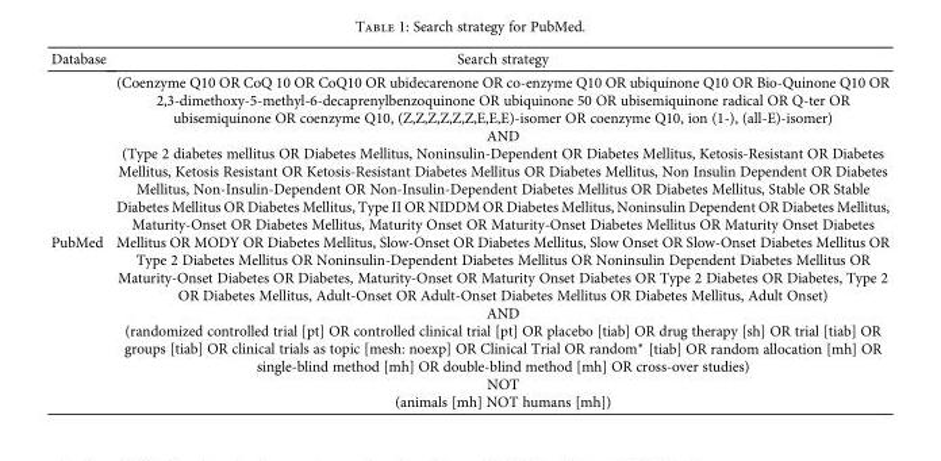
<table><thead><tr><td>Database</td><td>Search strategy</td></tr></thead><tbody><tr><td>PubMed</td><td>(Coenzyme Q10 OR CoQ 10 OR CoQ10 OR ubidecarenone OR co-enzyme Q10 OR ubiquinone Q10 OR Bio-Quinone Q10 OR 2,3-dimethoxy-5-methyl-6-decaprenylbenzoquinone OR ubiquinone 50 OR ubisemiquinone radical OR Q-ter OR ubisemiquinone OR coenzyme Q10, (Z,Z,Z,Z,Z,Z,E,E,E)-isomer OR coenzyme Q10, ion (1-), (all-E)-isomer) AND (Type 2 diabetes mellitus OR Diabetes Mellitus, Noninsulin-Dependent OR Diabetes Mellitus, Ketosis-Resistant OR Diabetes Mellitus, Ketosis Resistant OR Ketosis-Resistant Diabetes Mellitus OR Diabetes Mellitus, Non Insulin Dependent OR Diabetes Mellitus, Non-Insulin-Dependent OR Non-Insulin-Dependent Diabetes Mellitus OR Diabetes Mellitus, Stable OR Stable Diabetes Mellitus OR Diabetes Mellitus, Type II OR NIDDM OR Diabetes Mellitus, Noninsulin Dependent OR Diabetes Mellitus, Maturity-Onset OR Diabetes Mellitus, Maturity Onset OR Maturity-Onset Diabetes Mellitus OR Maturity Onset Diabetes Mellitus OR MODY OR Diabetes Mellitus, Slow-Onset OR Diabetes Mellitus, Slow Onset OR Slow-Onset Diabetes Mellitus OR Type 2 Diabetes Mellitus OR Noninsulin-Dependent Diabetes Mellitus OR Noninsulin Dependent Diabetes Mellitus OR Maturity-Onset Diabetes OR Diabetes, Maturity-Onset OR Maturity Onset Diabetes OR Type 2 Diabetes OR Diabetes, Type 2 OR Diabetes Mellitus, Adult-Onset OR Adult-Onset Diabetes Mellitus OR Diabetes Mellitus, Adult Onset) AND (randomized controlled trial [pt] OR controlled clinical trial [pt] OR placebo [tiab] OR drug therapy [sh] OR trial [tiab] OR groups [tiab] OR clinical trials as topic [mesh: noexp] OR Clinical Trial OR random∗ [tiab] OR random allocation [mh] OR single-blind method [mh] OR double-blind method [mh] OR cross-over studies) NOT (animals [mh] NOT humans [mh])</td></tr></tbody></table>